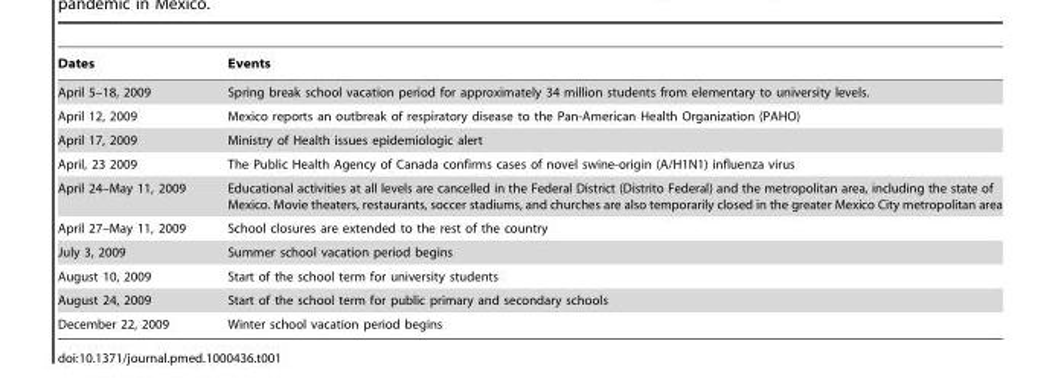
<table><thead><tr><td>Dates</td><td>Events</td></tr></thead><tbody><tr><td>April 5–18, 2009</td><td>Spring break school vacation period for approximately 34 million students from elementary to university levels.</td></tr><tr><td>April 12, 2009</td><td>Mexico reports an outbreak of respiratory disease to the Pan-American Health Organization (PAHO)</td></tr><tr><td>April 17, 2009</td><td>Ministry of Health issues epidemiologic alert</td></tr><tr><td>April, 23 2009</td><td>The Public Health Agency of Canada confirms cases of novel swine-origin (A/H1N1) influenza virus</td></tr><tr><td>April 24–May 11, 2009</td><td>Educational activities at all levels are cancelled in the Federal District (Distrito Federal) and the metropolitan area, including the state of Mexico. Movie theaters, restaurants, soccer stadiums, and churches are also temporarily closed in the greater Mexico City metropolitan area</td></tr><tr><td>April 27–May 11, 2009</td><td>School closures are extended to the rest of the country</td></tr><tr><td>July 3, 2009</td><td>Summer school vacation period begins</td></tr><tr><td>August 10, 2009</td><td>Start of the school term for university students</td></tr><tr><td>August 24, 2009</td><td>Start of the school term for public primary and secondary schools</td></tr><tr><td>December 22, 2009</td><td>Winter school vacation period begins</td></tr></tbody></table>